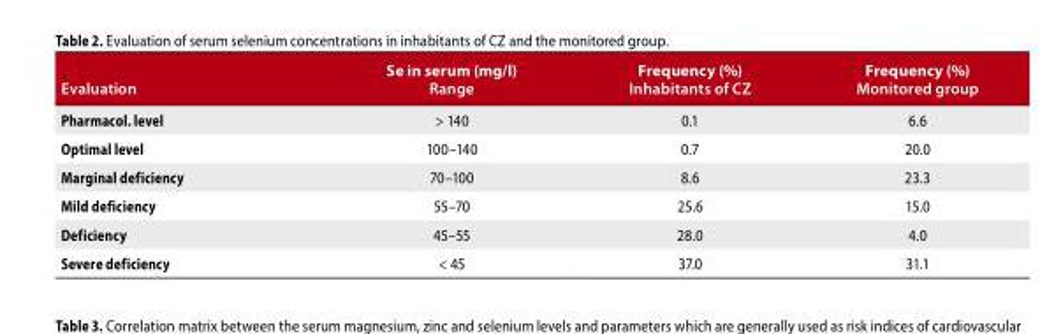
<table><thead><tr><td>evaluation</td><td>Se in serum (mg/l) Range</td><td>Frequency (%) inhabitants of cZ</td><td>Frequency (%) Monitored group</td></tr></thead><tbody><tr><td>Pharmacol. level</td><td>&gt; 140</td><td>0.1</td><td>6.6</td></tr><tr><td>Optimal level</td><td>100–140</td><td>0.7</td><td>20.0</td></tr><tr><td>Marginal deficiency</td><td>70–100</td><td>8.6</td><td>23.3</td></tr><tr><td>Mild deficiency</td><td>55–70</td><td>25.6</td><td>15.0</td></tr><tr><td>Deficiency</td><td>45–55</td><td>28.0</td><td>4.0</td></tr><tr><td>Severe deficiency</td><td>&lt; 45</td><td>37.0</td><td>31.1</td></tr></tbody></table>